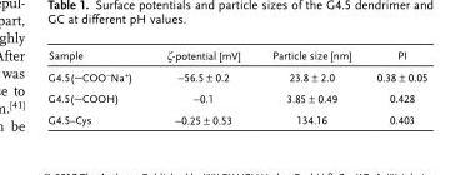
<table><thead><tr><td>Sample</td><td>ζ-potential [mV]</td><td>Particle size [nm]</td><td>PI</td></tr></thead><tbody><tr><td>G4.5(—COO<sup>−</sup>Na<sup>+</sup>)</td><td>−56.5 ± 0.2</td><td>23.8 ± 2.0</td><td>0.38 ± 0.05</td></tr><tr><td>G4.5(—COOH)</td><td>−0.1</td><td>3.85 ± 0.49</td><td>0.428</td></tr><tr><td>G4.5–Cys</td><td>−0.25 ± 0.53</td><td>134.16</td><td>0.403</td></tr></tbody></table>